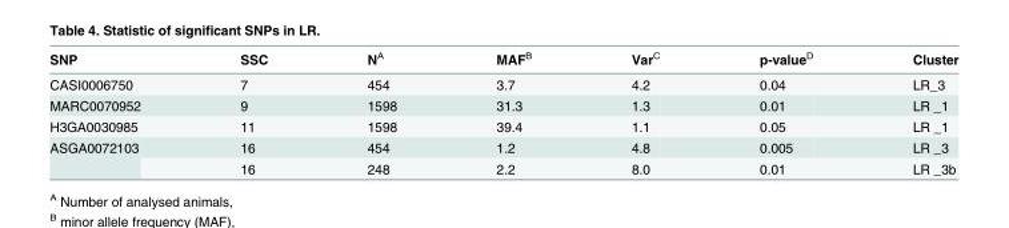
<table><thead><tr><td>SNP</td><td>SSC</td><td>N<sup>A</sup></td><td>MAF<sup>B</sup></td><td>Var<sup>C</sup></td><td>p-value<sup>D</sup></td><td>Cluster</td></tr></thead><tbody><tr><td>CASI0006750</td><td>7</td><td>454</td><td>3.7</td><td>4.2</td><td>0.04</td><td>LR_3</td></tr><tr><td>MARC0070952</td><td>9</td><td>1598</td><td>31.3</td><td>1.3</td><td>0.01</td><td>LR _1</td></tr><tr><td>H3GA0030985</td><td>11</td><td>1598</td><td>39.4</td><td>1.1</td><td>0.05</td><td>LR _1</td></tr><tr><td rowspan="2">ASGA0072103</td><td>16</td><td>454</td><td>1.2</td><td>4.8</td><td>0.005</td><td>LR _3</td></tr><tr><td>16</td><td>248</td><td>2.2</td><td>8.0</td><td>0.01</td><td>LR _3b</td></tr></tbody></table>